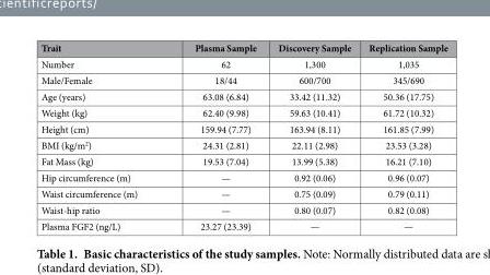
<table><thead><tr><td>Trait</td><td>Plasma Sample</td><td>Discovery Sample</td><td>Replication Sample</td></tr></thead><tbody><tr><td>Number</td><td>62</td><td>1,300</td><td>1,035</td></tr><tr><td>Male/Female</td><td>18/44</td><td>600/700</td><td>345/690</td></tr><tr><td>Age (years)</td><td>63.08 (6.84)</td><td>33.42 (11.32)</td><td>50.36 (17.75)</td></tr><tr><td>Weight (kg)</td><td>62.40 (9.98)</td><td>59.63 (10.41)</td><td>61.72 (10.32)</td></tr><tr><td>Height (cm)</td><td>159.94 (7.77)</td><td>163.94 (8.11)</td><td>161.85 (7.99)</td></tr><tr><td>BMI (kg/m<sup>2</sup>)</td><td>24.31 (2.81)</td><td>22.11 (2.98)</td><td>23.53 (3.28)</td></tr><tr><td>Fat Mass (kg)</td><td>19.53 (7.04)</td><td>13.99 (5.38)</td><td>16.21 (7.10)</td></tr><tr><td>Hip circumference (m)</td><td>—</td><td>0.92 (0.06)</td><td>0.96 (0.07)</td></tr><tr><td>Waist circumference (m)</td><td>—</td><td>0.75 (0.09)</td><td>0.79 (0.11)</td></tr><tr><td>Waist-hip ratio</td><td>—</td><td>0.80 (0.07)</td><td>0.82 (0.08)</td></tr><tr><td>Plasma FGF2 (ng/L)</td><td>23.27 (23.39)</td><td>—</td><td>—</td></tr></tbody></table>